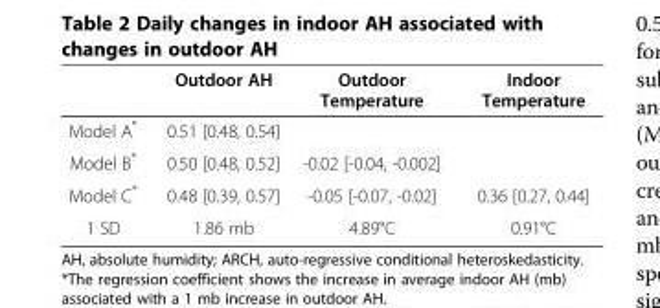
<table><thead><tr><td></td><td>Outdoor AH</td><td>Outdoor Temperature</td><td>Indoor Temperature</td></tr></thead><tbody><tr><td>Model A*</td><td>0.51 [0.48, 0.54]</td><td></td><td></td></tr><tr><td>Model B*</td><td>0.50 [0.48, 0.52]</td><td>-0.02 [-0.04, -0.002]</td><td></td></tr><tr><td>Model C*</td><td>0.48 [0.39, 0.57]</td><td>-0.05 [-0.07, -0.02]</td><td>0.36 [0.27, 0.44]</td></tr><tr><td>1 SD</td><td>1.86 mb</td><td>4.89°C</td><td>0.91°C</td></tr></tbody></table>